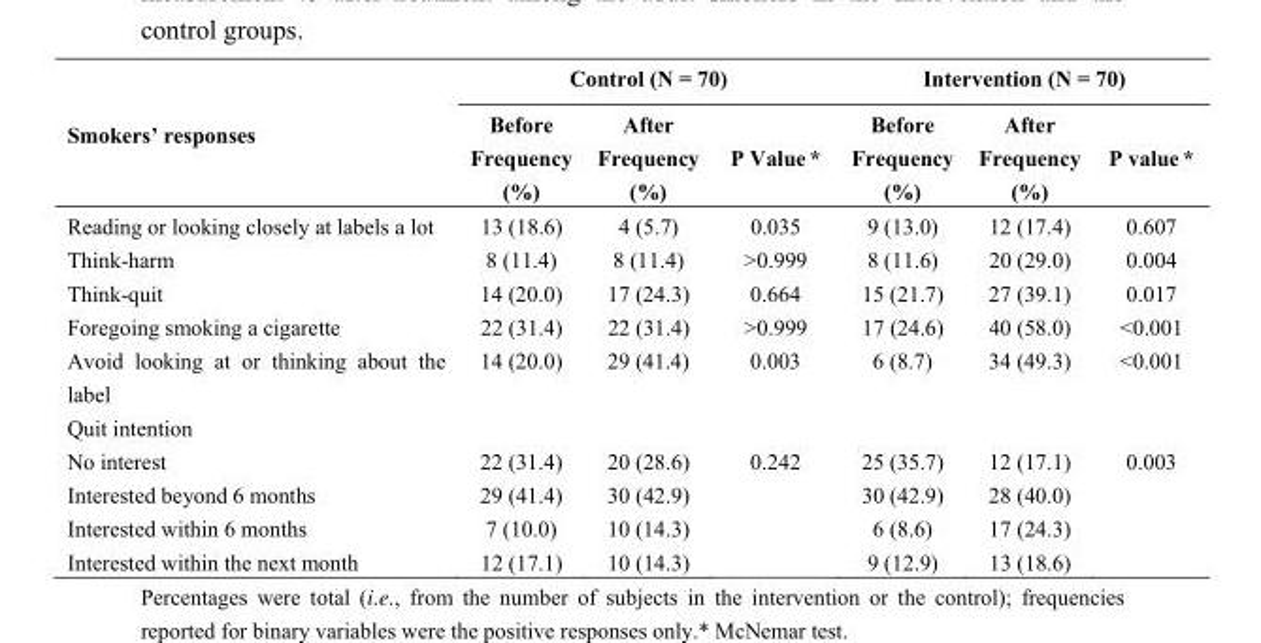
<table><thead><tr><td rowspan="2">Smokers’ responses</td><td colspan="3">Control (N = 70)</td><td colspan="3">Intervention (N = 70)</td></tr><tr><td>Before Frequency (%)</td><td>After Frequency (%)</td><td>P Value *</td><td>Before Frequency (%)</td><td>After Frequency (%)</td><td>P value *</td></tr></thead><tbody><tr><td>Reading or looking closely at labels a lot</td><td>13 (18.6)</td><td>4 (5.7)</td><td>0.035</td><td>9 (13.0)</td><td>12 (17.4)</td><td>0.607</td></tr><tr><td>Think-harm</td><td>8 (11.4)</td><td>8 (11.4)</td><td>&gt;0.999</td><td>8 (11.6)</td><td>20 (29.0)</td><td>0.004</td></tr><tr><td>Think-quit</td><td>14 (20.0)</td><td>17 (24.3)</td><td>0.664</td><td>15 (21.7)</td><td>27 (39.1)</td><td>0.017</td></tr><tr><td>Foregoing smoking a cigarette</td><td>22 (31.4)</td><td>22 (31.4)</td><td>&gt;0.999</td><td>17 (24.6)</td><td>40 (58.0)</td><td>&lt;0.001</td></tr><tr><td>Avoid looking at or thinking about the label</td><td>14 (20.0)</td><td>29 (41.4)</td><td>0.003</td><td>6 (8.7)</td><td>34 (49.3)</td><td>&lt;0.001</td></tr><tr><td colspan="7">Quit intention</td></tr><tr><td>No interest</td><td>22 (31.4)</td><td>20 (28.6)</td><td>0.242</td><td>25 (35.7)</td><td>12 (17.1)</td><td>0.003</td></tr><tr><td>Interested beyond 6 months</td><td>29 (41.4)</td><td>30 (42.9)</td><td></td><td>30 (42.9)</td><td>28 (40.0)</td><td></td></tr><tr><td>Interested within 6 months</td><td>7 (10.0)</td><td>10 (14.3)</td><td></td><td>6 (8.6)</td><td>17 (24.3)</td><td></td></tr><tr><td>Interested within the next month</td><td>12 (17.1)</td><td>10 (14.3)</td><td></td><td>9 (12.9)</td><td>13 (18.6)</td><td></td></tr></tbody></table>